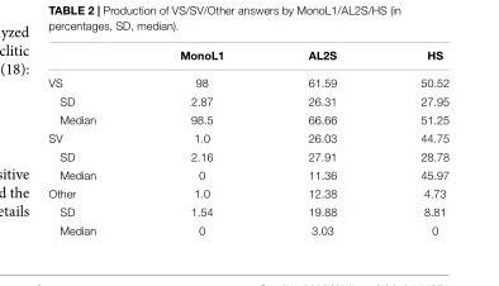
<table><thead><tr><td></td><td>MonoL1</td><td>AL2S</td><td>HS</td></tr></thead><tbody><tr><td>VS</td><td>98</td><td>61.59</td><td>50.52</td></tr><tr><td>SD</td><td>2.87</td><td>26.31</td><td>27.95</td></tr><tr><td>Median</td><td>98.5</td><td>66.66</td><td>51.25</td></tr><tr><td>SV</td><td>1.0</td><td>26.03</td><td>44.75</td></tr><tr><td>SD</td><td>2.16</td><td>27.91</td><td>28.78</td></tr><tr><td>Median</td><td>0</td><td>11.36</td><td>45.97</td></tr><tr><td>Other</td><td>1.0</td><td>12.38</td><td>4.73</td></tr><tr><td>SD</td><td>1.54</td><td>19.88</td><td>8.81</td></tr><tr><td>Median</td><td>0</td><td>3.03</td><td>0</td></tr></tbody></table>